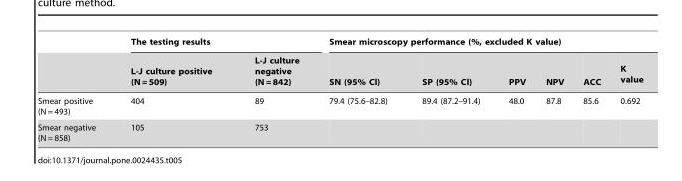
<table><thead><tr><td rowspan="2"></td><td colspan="2">The testing results</td><td colspan="6">Smear microscopy performance (%, excluded K value)</td></tr><tr><td>L-J culture positive (N = 509)</td><td>L-J culture negative (N = 842)</td><td>SN (95% Cl)</td><td>SP (95% Cl)</td><td>PPV</td><td>NPV</td><td>ACC</td><td>K value</td></tr></thead><tbody><tr><td>Smear positive (N = 493)</td><td>404</td><td>89</td><td>79.4 (75.6–82.8)</td><td>89.4 (87.2–91.4)</td><td>48.0</td><td>87.8</td><td>85.6</td><td>0.692</td></tr><tr><td>Smear negative (N = 858)</td><td>105</td><td>753</td><td></td><td></td><td></td><td></td><td></td><td></td></tr></tbody></table>